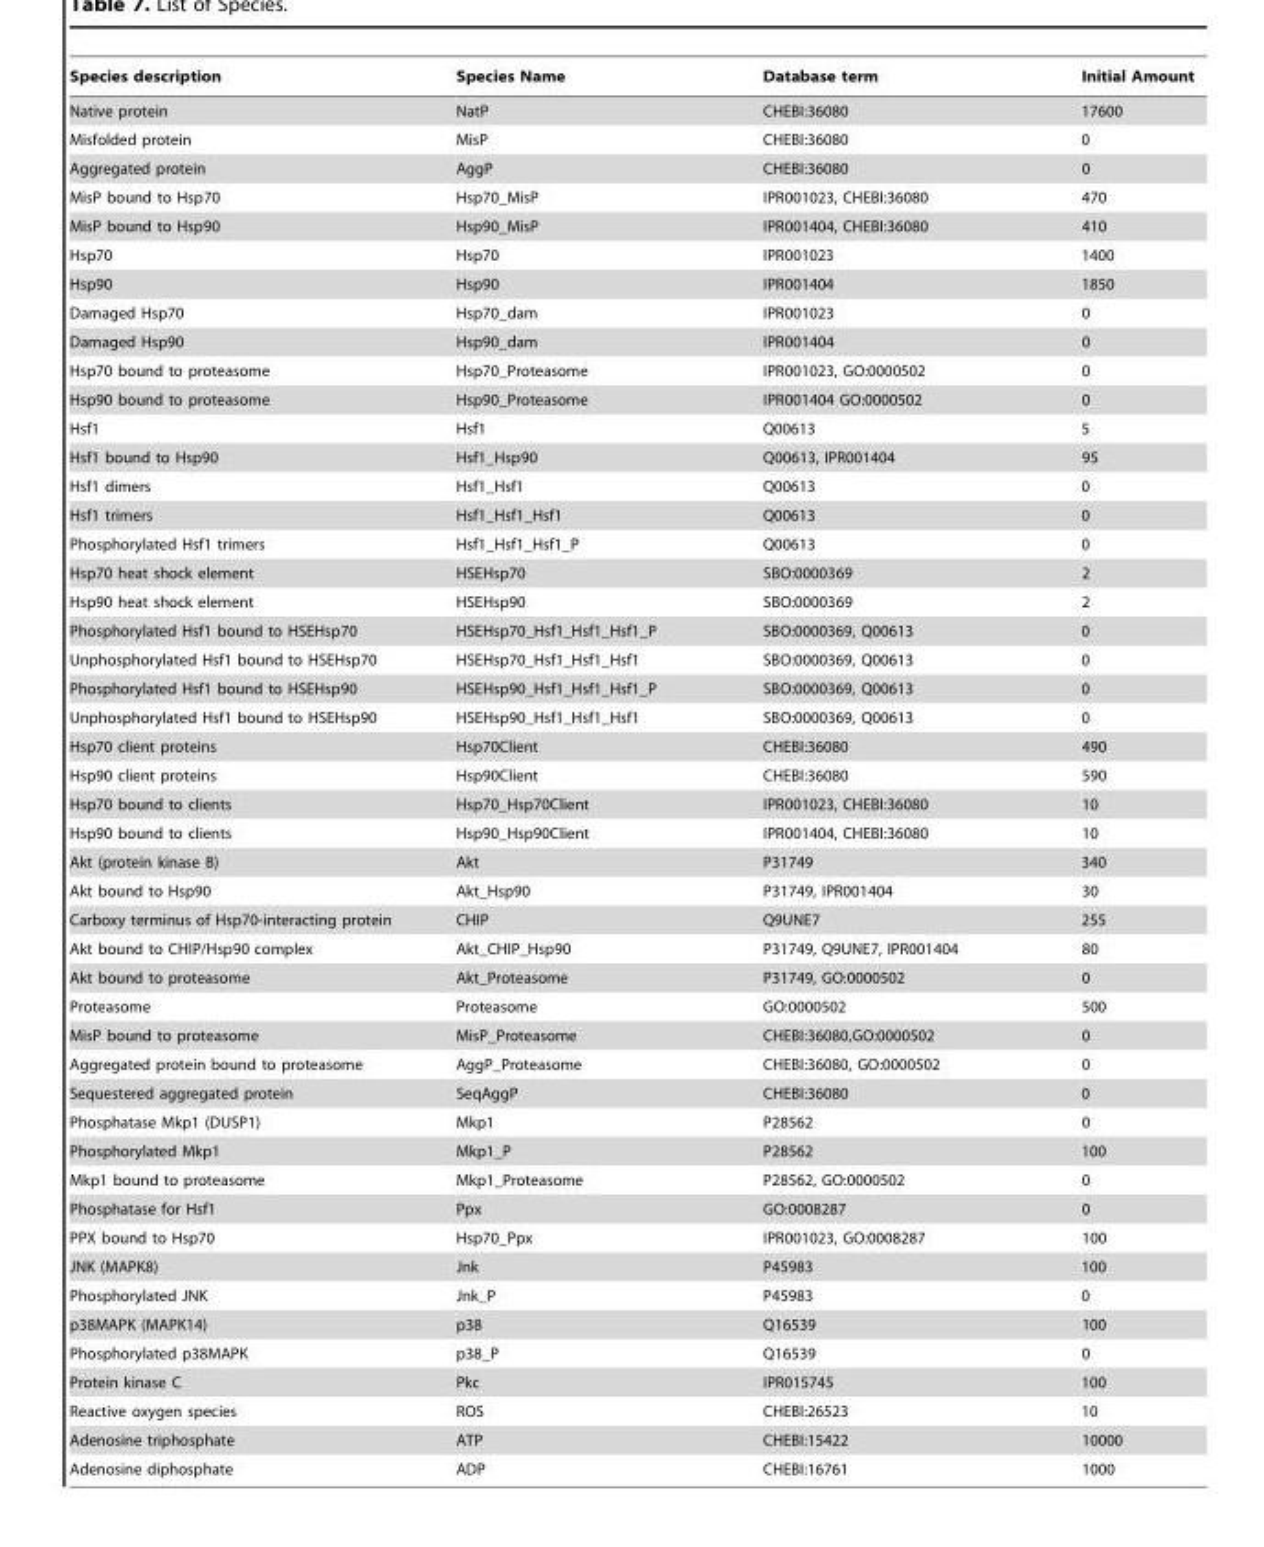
<table><thead><tr><td>Species description</td><td>Species Name</td><td>Database term</td><td>Initial Amount</td></tr></thead><tbody><tr><td>Native protein</td><td>NatP</td><td>CHEBI:36080</td><td>17600</td></tr><tr><td>Misfolded protein</td><td>MisP</td><td>CHEBI:36080</td><td>0</td></tr><tr><td>Aggregated protein</td><td>AggP</td><td>CHEBI:36080</td><td>0</td></tr><tr><td>MisP bound to Hsp70</td><td>Hsp70_MisP</td><td>IPR001023, CHEBI:36080</td><td>470</td></tr><tr><td>MisP bound to Hsp90</td><td>Hsp90_MisP</td><td>IPR001404, CHEBI:36080</td><td>410</td></tr><tr><td>Hsp70</td><td>Hsp70</td><td>IPR001023</td><td>1400</td></tr><tr><td>Hsp90</td><td>Hsp90</td><td>IPR001404</td><td>1850</td></tr><tr><td>Damaged Hsp70</td><td>Hsp70_dam</td><td>IPR001023</td><td>0</td></tr><tr><td>Damaged Hsp90</td><td>Hsp90_dam</td><td>IPR001404</td><td>0</td></tr><tr><td>Hsp70 bound to proteasome</td><td>Hsp70_Proteasome</td><td>IPR001023, GO:0000502</td><td>0</td></tr><tr><td>Hsp90 bound to proteasome</td><td>Hsp90_Proteasome</td><td>IPR001404 GO:0000502</td><td>0</td></tr><tr><td>Hsf1</td><td>Hsf1</td><td>Q00613</td><td>5</td></tr><tr><td>Hsf1 bound to Hsp90</td><td>Hsf1_Hsp90</td><td>Q00613, IPR001404</td><td>95</td></tr><tr><td>Hsf1 dimers</td><td>Hsf1_Hsf1</td><td>Q00613</td><td>0</td></tr><tr><td>Hsf1 trimers</td><td>Hsf1_Hsf1_Hsf1</td><td>Q00613</td><td>0</td></tr><tr><td>Phosphorylated Hsf1 trimers</td><td>Hsf1_Hsf1_Hsf1_P</td><td>Q00613</td><td>0</td></tr><tr><td>Hsp70 heat shock element</td><td>HSEHsp70</td><td>SBO:0000369</td><td>2</td></tr><tr><td>Hsp90 heat shock element</td><td>HSEHsp90</td><td>SBO:0000369</td><td>2</td></tr><tr><td>Phosphorylated Hsf1 bound to HSEHsp70</td><td>HSEHsp70_Hsf1_Hsf1_Hsf1_P</td><td>SBO:0000369, Q00613</td><td>0</td></tr><tr><td>Unphosphorylated Hsf1 bound to HSEHsp70</td><td>HSEHsp70_Hsf1_Hsf1_Hsf1</td><td>SBO:0000369, Q00613</td><td>0</td></tr><tr><td>Phosphorylated Hsf1 bound to HSEHsp90</td><td>HSEHsp90_Hsf1_Hsf1_Hsf1_P</td><td>SBO:0000369, Q00613</td><td>0</td></tr><tr><td>Unphosphorylated Hsf1 bound to HSEHsp90</td><td>HSEHsp90_Hsf1_Hsf1_Hsf1</td><td>SBO:0000369, Q00613</td><td>0</td></tr><tr><td>Hsp70 client proteins</td><td>Hsp70Client</td><td>CHEBI:36080</td><td>490</td></tr><tr><td>Hsp90 client proteins</td><td>Hsp90Client</td><td>CHEBI:36080</td><td>590</td></tr><tr><td>Hsp70 bound to clients</td><td>Hsp70_Hsp70Client</td><td>IPR001023, CHEBI:36080</td><td>10</td></tr><tr><td>Hsp90 bound to clients</td><td>Hsp90_Hsp90Client</td><td>IPR001404, CHEBI:36080</td><td>10</td></tr><tr><td>Akt (protein kinase B)</td><td>Akt</td><td>P31749</td><td>340</td></tr><tr><td>Akt bound to Hsp90</td><td>Akt_Hsp90</td><td>P31749, IPR001404</td><td>30</td></tr><tr><td>Carboxy terminus of Hsp70-interacting protein</td><td>CHIP</td><td>Q9UNE7</td><td>255</td></tr><tr><td>Akt bound to CHIP/Hsp90 complex</td><td>Akt_CHIP_Hsp90</td><td>P31749, Q9UNE7, IPR001404</td><td>80</td></tr><tr><td>Akt bound to proteasome</td><td>Akt_Proteasome</td><td>P31749, GO:0000502</td><td>0</td></tr><tr><td>Proteasome</td><td>Proteasome</td><td>GO:0000502</td><td>500</td></tr><tr><td>MisP bound to proteasome</td><td>MisP_Proteasome</td><td>CHEBI:36080,GO:0000502</td><td>0</td></tr><tr><td>Aggregated protein bound to proteasome</td><td>AggP_Proteasome</td><td>CHEBI:36080, GO:0000502</td><td>0</td></tr><tr><td>Sequestered aggregated protein</td><td>SeqAggP</td><td>CHEBI:36080</td><td>0</td></tr><tr><td>Phosphatase Mkp1 (DUSP1)</td><td>Mkp1</td><td>P28562</td><td>0</td></tr><tr><td>Phosphorylated Mkp1</td><td>Mkp1_P</td><td>P28562</td><td>100</td></tr><tr><td>Mkp1 bound to proteasome</td><td>Mkp1_Proteasome</td><td>P28562, GO:0000502</td><td>0</td></tr><tr><td>Phosphatase for Hsf1</td><td>Ppx</td><td>GO:0008287</td><td>0</td></tr><tr><td>PPX bound to Hsp70</td><td>Hsp70_Ppx</td><td>IPR001023, GO:0008287</td><td>100</td></tr><tr><td>JNK (MAPK8)</td><td>Jnk</td><td>P45983</td><td>100</td></tr><tr><td>Phosphorylated JNK</td><td>Jnk_P</td><td>P45983</td><td>0</td></tr><tr><td>p38MAPK (MAPK14)</td><td>p38</td><td>Q16539</td><td>100</td></tr><tr><td>Phosphorylated p38MAPK</td><td>p38_P</td><td>Q16539</td><td>0</td></tr><tr><td>Protein kinase C</td><td>Pkc</td><td>IPR015745</td><td>100</td></tr><tr><td>Reactive oxygen species</td><td>ROS</td><td>CHEBI:26523</td><td>10</td></tr><tr><td>Adenosine triphosphate</td><td>ATP</td><td>CHEBI:15422</td><td>10000</td></tr><tr><td>Adenosine diphosphate</td><td>ADP</td><td>CHEBI:16761</td><td>1000</td></tr></tbody></table>